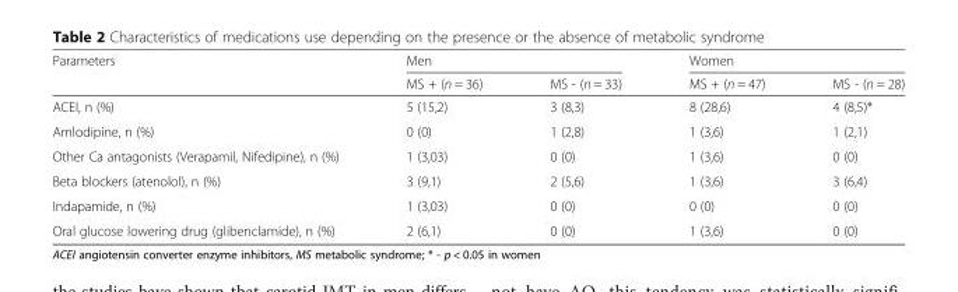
<table><thead><tr><td rowspan="2">Parameters</td><td colspan="2">Men</td><td colspan="2">Women</td></tr><tr><td>MS + (n = 36)</td><td>MS - (n = 33)</td><td>MS + (n = 47)</td><td>MS - (n = 28)</td></tr></thead><tbody><tr><td>ACEI, n (%)</td><td>5 (15,2)</td><td>3 (8,3)</td><td>8 (28,6)</td><td>4 (8,5)*</td></tr><tr><td>Amlodipine, n (%)</td><td>0 (0)</td><td>1 (2,8)</td><td>1 (3,6)</td><td>1 (2,1)</td></tr><tr><td>Other Ca antagonists (Verapamil, Nifedipine), n (%)</td><td>1 (3,03)</td><td>0 (0)</td><td>1 (3,6)</td><td>0 (0)</td></tr><tr><td>Beta blockers (atenolol), n (%)</td><td>3 (9,1)</td><td>2 (5,6)</td><td>1 (3,6)</td><td>3 (6,4)</td></tr><tr><td>Indapamide, n (%)</td><td>1 (3,03)</td><td>0 (0)</td><td>0 (0)</td><td>0 (0)</td></tr><tr><td>Oral glucose lowering drug (glibenclamide), n (%)</td><td>2 (6,1)</td><td>0 (0)</td><td>1 (3,6)</td><td>0 (0)</td></tr></tbody></table>